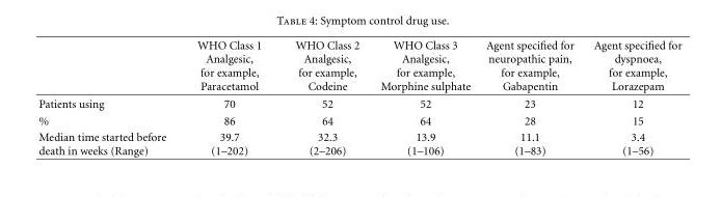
<table><thead><tr><td></td><td>WHO Class 1 Analgesic, for example, Paracetamol</td><td>WHO Class 2 Analgesic, for example, Codeine</td><td>WHO Class 3 Analgesic, for example, Morphine sulphate</td><td>Agent specified for neuropathic pain, for example, Gabapentin</td><td>Agent specified for dyspnoea, for example, Lorazepam</td></tr></thead><tbody><tr><td>Patients using</td><td>70</td><td>52</td><td>52</td><td>23</td><td>12</td></tr><tr><td>%</td><td>86</td><td>64</td><td>64</td><td>28</td><td>15</td></tr><tr><td>Median time started before death in weeks (Range)</td><td>39.7 (1–202)</td><td>32.3 (2–206)</td><td>13.9 (1–106)</td><td>11.1 (1–83)</td><td>3.4 (1–56)</td></tr></tbody></table>